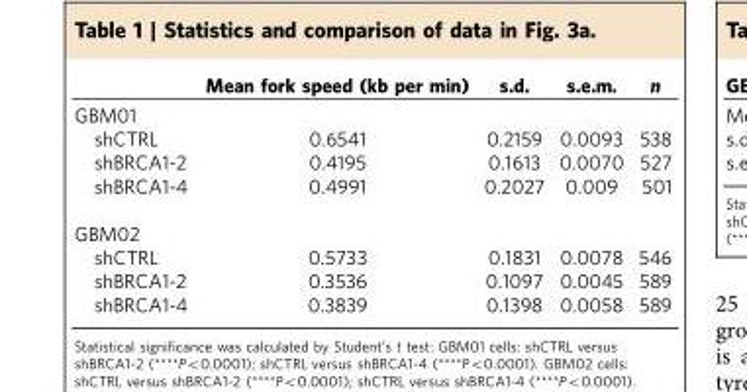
<table><thead><tr><td></td><td>Mean fork speed (kb per min)</td><td>s.d.</td><td>s.e.m.</td><td>n</td></tr></thead><tbody><tr><td colspan="5">GBM01</td></tr><tr><td>shCTRL</td><td>0.6541</td><td>0.2159</td><td>0.0093</td><td>538</td></tr><tr><td>shBRCA1-2</td><td>0.4195</td><td>0.1613</td><td>0.0070</td><td>527</td></tr><tr><td>shBRCA1-4</td><td>0.4991</td><td>0.2027</td><td>0.009</td><td>501</td></tr><tr><td colspan="5">GBM02</td></tr><tr><td>shCTRL</td><td>0.5733</td><td>0.1831</td><td>0.0078</td><td>546</td></tr><tr><td>shBRCA1-2</td><td>0.3536</td><td>0.1097</td><td>0.0045</td><td>589</td></tr><tr><td>shBRCA1-4</td><td>0.3839</td><td>0.1398</td><td>0.0058</td><td>589</td></tr></tbody></table>